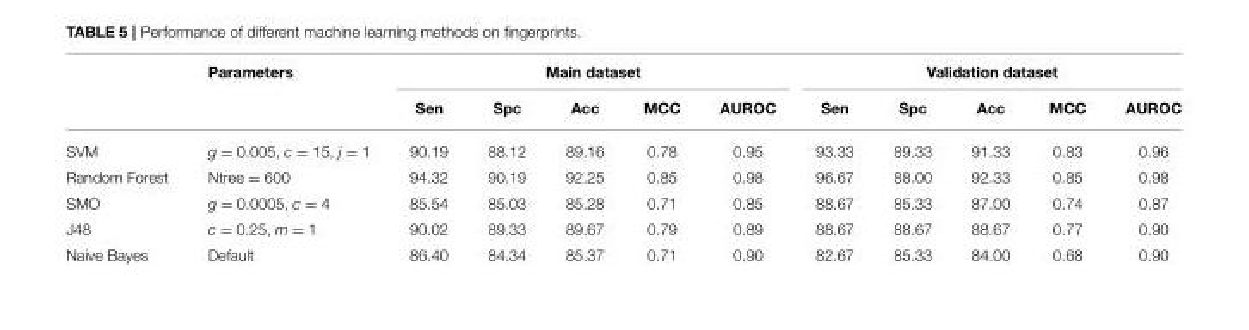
<table><thead><tr><td rowspan="2"></td><td rowspan="2">Parameters</td><td colspan="5">Main dataset</td><td colspan="5">Validation dataset</td></tr><tr><td>Sen</td><td>Spc</td><td>Acc</td><td>MCC</td><td>AUROC</td><td>Sen</td><td>Spc</td><td>Acc</td><td>MCC</td><td>AUROC</td></tr></thead><tbody><tr><td>SVM</td><td>g = 0.005, c = 15, j = 1</td><td>90.19</td><td>88.12</td><td>89.16</td><td>0.78</td><td>0.95</td><td>93.33</td><td>89.33</td><td>91.33</td><td>0.83</td><td>0.96</td></tr><tr><td>Random Forest</td><td>Ntree = 600</td><td>94.32</td><td>90.19</td><td>92.25</td><td>0.85</td><td>0.98</td><td>96.67</td><td>88.00</td><td>92.33</td><td>0.85</td><td>0.98</td></tr><tr><td>SMO</td><td>g = 0.0005, c = 4</td><td>85.54</td><td>85.03</td><td>85.28</td><td>0.71</td><td>0.85</td><td>88.67</td><td>85.33</td><td>87.00</td><td>0.74</td><td>0.87</td></tr><tr><td>J48</td><td>c = 0.25, m = 1</td><td>90.02</td><td>89.33</td><td>89.67</td><td>0.79</td><td>0.89</td><td>88.67</td><td>88.67</td><td>88.67</td><td>0.77</td><td>0.90</td></tr><tr><td>Naive Bayes</td><td>Default</td><td>86.40</td><td>84.34</td><td>85.37</td><td>0.71</td><td>0.90</td><td>82.67</td><td>85.33</td><td>84.00</td><td>0.68</td><td>0.90</td></tr></tbody></table>